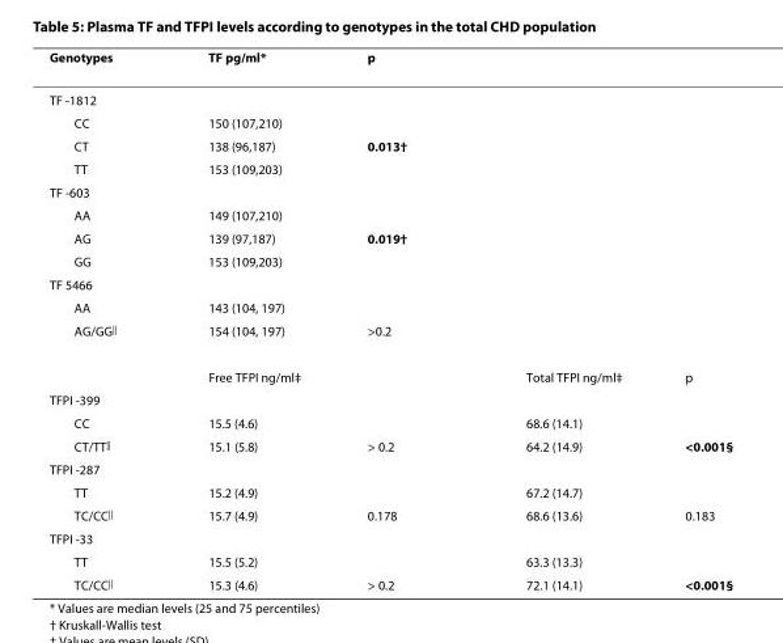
<table><thead><tr><td>Genotypes</td><td>TF pg/ml*</td><td>p</td><td></td><td></td></tr></thead><tbody><tr><td colspan="5">TF -1812</td></tr><tr><td>CC</td><td>150 (107,210)</td><td></td><td></td><td></td></tr><tr><td>CT</td><td>138 (96,187)</td><td>0.013†</td><td></td><td></td></tr><tr><td>TT</td><td>153 (109,203)</td><td></td><td></td><td></td></tr><tr><td colspan="5">TF -603</td></tr><tr><td>AA</td><td>149 (107,210)</td><td></td><td></td><td></td></tr><tr><td>AG</td><td>139 (97,187)</td><td>0.019†</td><td></td><td></td></tr><tr><td>GG</td><td>153 (109,203)</td><td></td><td></td><td></td></tr><tr><td colspan="5">TF 5466</td></tr><tr><td>AA</td><td>143 (104, 197)</td><td></td><td></td><td></td></tr><tr><td rowspan="2">AG/GG<sup>||</sup></td><td>154 (104, 197)</td><td>&gt;0.2</td><td></td><td></td></tr><tr><td>Free TFPI ng/ml‡</td><td></td><td>Total TFPI ng/ml‡</td><td>p</td></tr><tr><td colspan="5">TFPI -399</td></tr><tr><td>CC</td><td>15.5 (4.6)</td><td></td><td>68.6 (14.1)</td><td></td></tr><tr><td>CT/TT<sup>||</sup></td><td>15.1 (5.8)</td><td>&gt; 0.2</td><td>64.2 (14.9)</td><td>&lt;0.001§</td></tr><tr><td colspan="5">TFPI -287</td></tr><tr><td>TT</td><td>15.2 (4.9)</td><td></td><td>67.2 (14.7)</td><td></td></tr><tr><td>TC/CC<sup>||</sup></td><td>15.7 (4.9)</td><td>0.178</td><td>68.6 (13.6)</td><td>0.183</td></tr><tr><td colspan="5">TFPI -33</td></tr><tr><td>TT</td><td>15.5 (5.2)</td><td></td><td>63.3 (13.3)</td><td></td></tr><tr><td>TC/CC<sup>||</sup></td><td>15.3 (4.6)</td><td>&gt; 0.2</td><td>72.1 (14.1)</td><td>&lt;0.001§</td></tr></tbody></table>